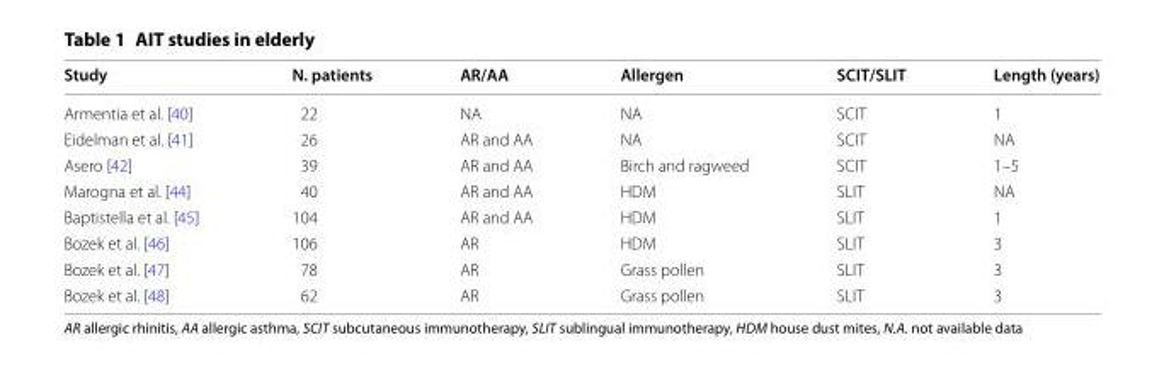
<table><thead><tr><td>Study</td><td>N. patients</td><td>AR/AA</td><td>Allergen</td><td>SCIT/SLIT</td><td>Length (years)</td></tr></thead><tbody><tr><td>Armentia et al. [40]</td><td>22</td><td>NA</td><td>NA</td><td>SCIT</td><td>1</td></tr><tr><td>Eidelman et al. [41]</td><td>26</td><td>AR and AA</td><td>NA</td><td>SCIT</td><td>NA</td></tr><tr><td>Asero [42]</td><td>39</td><td>AR and AA</td><td>Birch and ragweed</td><td>SCIT</td><td>1–5</td></tr><tr><td>Marogna et al. [44]</td><td>40</td><td>AR and AA</td><td>HDM</td><td>SLIT</td><td>NA</td></tr><tr><td>Baptistella et al. [45]</td><td>104</td><td>AR and AA</td><td>HDM</td><td>SLIT</td><td>1</td></tr><tr><td>Bozek et al. [46]</td><td>106</td><td>AR</td><td>HDM</td><td>SLIT</td><td>3</td></tr><tr><td>Bozek et al. [47]</td><td>78</td><td>AR</td><td>Grass pollen</td><td>SLIT</td><td>3</td></tr><tr><td>Bozek et al. [48]</td><td>62</td><td>AR</td><td>Grass pollen</td><td>SLIT</td><td>3</td></tr></tbody></table>